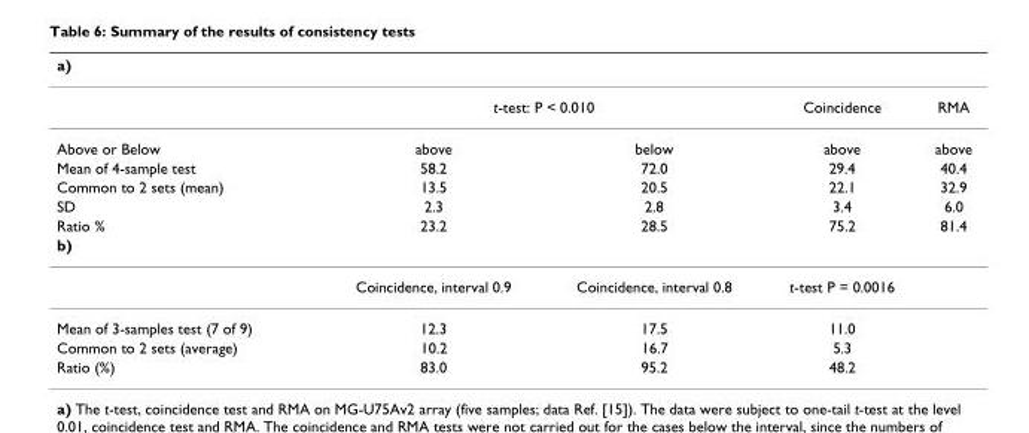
<table><thead><tr><td>a)</td><td></td><td></td><td></td><td></td></tr></thead><tbody><tr><td></td><td colspan="2">t-test: P &lt; 0.010</td><td>Coincidence</td><td>RMA</td></tr><tr><td>Above or Below</td><td>above</td><td>below</td><td>above</td><td>above</td></tr><tr><td>Mean of 4-sample test</td><td>58.2</td><td>72.0</td><td>29.4</td><td>40.4</td></tr><tr><td>Common to 2 sets (mean)</td><td>13.5</td><td>20.5</td><td>22.1</td><td>32.9</td></tr><tr><td>SD</td><td>2.3</td><td>2.8</td><td>3.4</td><td>6.0</td></tr><tr><td>Ratio %</td><td>23.2</td><td>28.5</td><td>75.2</td><td>81.4</td></tr><tr><td colspan="5">b)</td></tr><tr><td></td><td>Coincidence, interval 0.9</td><td>Coincidence, interval 0.8</td><td>t-test P = 0.0016</td><td></td></tr><tr><td>Mean of 3-samples test (7 of 9)</td><td>12.3</td><td>17.5</td><td>11.0</td><td></td></tr><tr><td>Common to 2 sets (average)</td><td>10.2</td><td>16.7</td><td>5.3</td><td></td></tr><tr><td>Ratio (%)</td><td>83.0</td><td>95.2</td><td>48.2</td><td></td></tr></tbody></table>